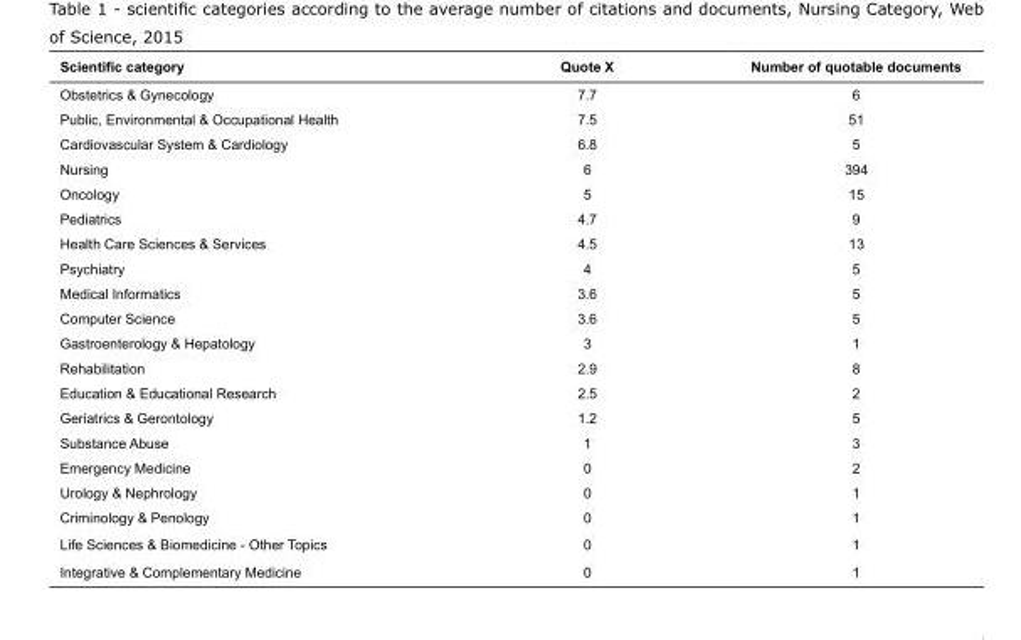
<table><thead><tr><td>Scientific category</td><td>Quote X</td><td>Number of quotable documents</td></tr></thead><tbody><tr><td>Obstetrics &amp; Gynecology</td><td>7.7</td><td>6</td></tr><tr><td>Public, Environmental &amp; Occupational Health</td><td>7.5</td><td>51</td></tr><tr><td>Cardiovascular System &amp; Cardiology</td><td>6.8</td><td>5</td></tr><tr><td>Nursing</td><td>6</td><td>394</td></tr><tr><td>Oncology</td><td>5</td><td>15</td></tr><tr><td>Pediatrics</td><td>4.7</td><td>9</td></tr><tr><td>Health Care Sciences &amp; Services</td><td>4.5</td><td>13</td></tr><tr><td>Psychiatry</td><td>4</td><td>5</td></tr><tr><td>Medical Informatics</td><td>3.6</td><td>5</td></tr><tr><td>Computer Science</td><td>3.6</td><td>5</td></tr><tr><td>Gastroenterology &amp; Hepatology</td><td>3</td><td>1</td></tr><tr><td>Rehabilitation</td><td>2.9</td><td>8</td></tr><tr><td>Education &amp; Educational Research</td><td>2.5</td><td>2</td></tr><tr><td>Geriatrics &amp; Gerontology</td><td>1.2</td><td>5</td></tr><tr><td>Substance Abuse</td><td>1</td><td>3</td></tr><tr><td>Emergency Medicine</td><td>0</td><td>2</td></tr><tr><td>Urology &amp; Nephrology</td><td>0</td><td>1</td></tr><tr><td>Criminology &amp; Penology</td><td>0</td><td>1</td></tr><tr><td>Life Sciences &amp; Biomedicine - Other Topics</td><td>0</td><td>1</td></tr><tr><td>Integrative &amp; Complementary Medicine</td><td>0</td><td>1</td></tr></tbody></table>